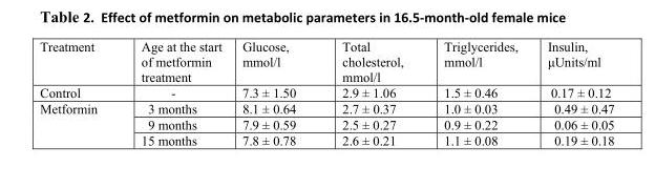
<table><thead><tr><td>Treatment</td><td>Age at the start of metformin treatment</td><td>Glucose, mmol/l</td><td>Total cholesterol, mmol/l</td><td>Triglycerides, mmol/l</td><td>Insulin, μUnits/ml</td></tr></thead><tbody><tr><td>Control</td><td>-</td><td>7.3 ± 1.50</td><td>2.9 ± 1.06</td><td>1.5 ± 0.46</td><td>0.17 ± 0.12</td></tr><tr><td rowspan="3">Metformin</td><td>3 months</td><td>8.1 ± 0.64</td><td>2.7 ± 0.37</td><td>1.0 ± 0.03</td><td>0.49 ± 0.47</td></tr><tr><td>9 months</td><td>7.9 ± 0.59</td><td>2.5 ± 0.27</td><td>0.9 ± 0.22</td><td>0.06 ± 0.05</td></tr><tr><td>15 months</td><td>7.8 ± 0.78</td><td>2.6 ± 0.21</td><td>1.1 ± 0.08</td><td>0.19 ± 0.18</td></tr></tbody></table>